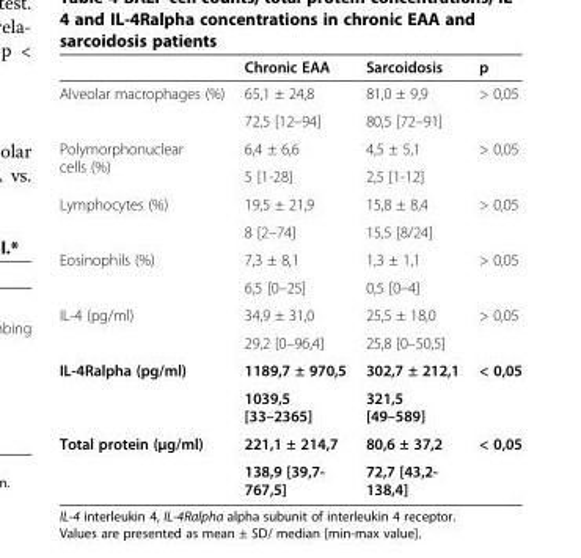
<table><thead><tr><td></td><td>Chronic EAA</td><td>Sarcoidosis</td><td>p</td></tr></thead><tbody><tr><td rowspan="2">Alveolar macrophages (%)</td><td>65,1 ± 24,8</td><td>81,0 ± 9,9</td><td rowspan="2">&gt; 0,05</td></tr><tr><td>72,5 [12–94]</td><td>80,5 [72–91]</td></tr><tr><td rowspan="2">Polymorphonuclear cells (%)</td><td>6,4 ± 6,6</td><td>4,5 ± 5,1</td><td rowspan="2">&gt; 0,05</td></tr><tr><td>5 [1-28]</td><td>2,5 [1-12]</td></tr><tr><td rowspan="2">Lymphocytes (%)</td><td>19,5 ± 21,9</td><td>15,8 ± 8,4</td><td rowspan="2">&gt; 0,05</td></tr><tr><td>8 [2–74]</td><td>15,5 [8/24]</td></tr><tr><td rowspan="2">Eosinophils (%)</td><td>7,3 ± 8,1</td><td>1,3 ± 1,1</td><td rowspan="2">&gt; 0,05</td></tr><tr><td>6,5 [0–25]</td><td>0,5 [0–4]</td></tr><tr><td rowspan="2">IL-4 (pg/ml)</td><td>34,9 ± 31,0</td><td>25,5 ± 18,0</td><td rowspan="2">&gt; 0,05</td></tr><tr><td>29,2 [0–96,4]</td><td>25,8 [0–50,5]</td></tr><tr><td rowspan="2">IL-4Ralpha (pg/ml)</td><td>1189,7 ± 970,5</td><td>302,7 ± 212,1</td><td rowspan="2">&lt; 0,05</td></tr><tr><td>1039,5 [33–2365]</td><td>321,5 [49–589]</td></tr><tr><td rowspan="2">Total protein (μg/ml)</td><td>221,1 ± 214,7</td><td>80,6 ± 37,2</td><td>&lt; 0,05</td></tr><tr><td>138,9 [39,7- 767,5]</td><td>72,7 [43,2- 138,4]</td><td></td></tr></tbody></table>